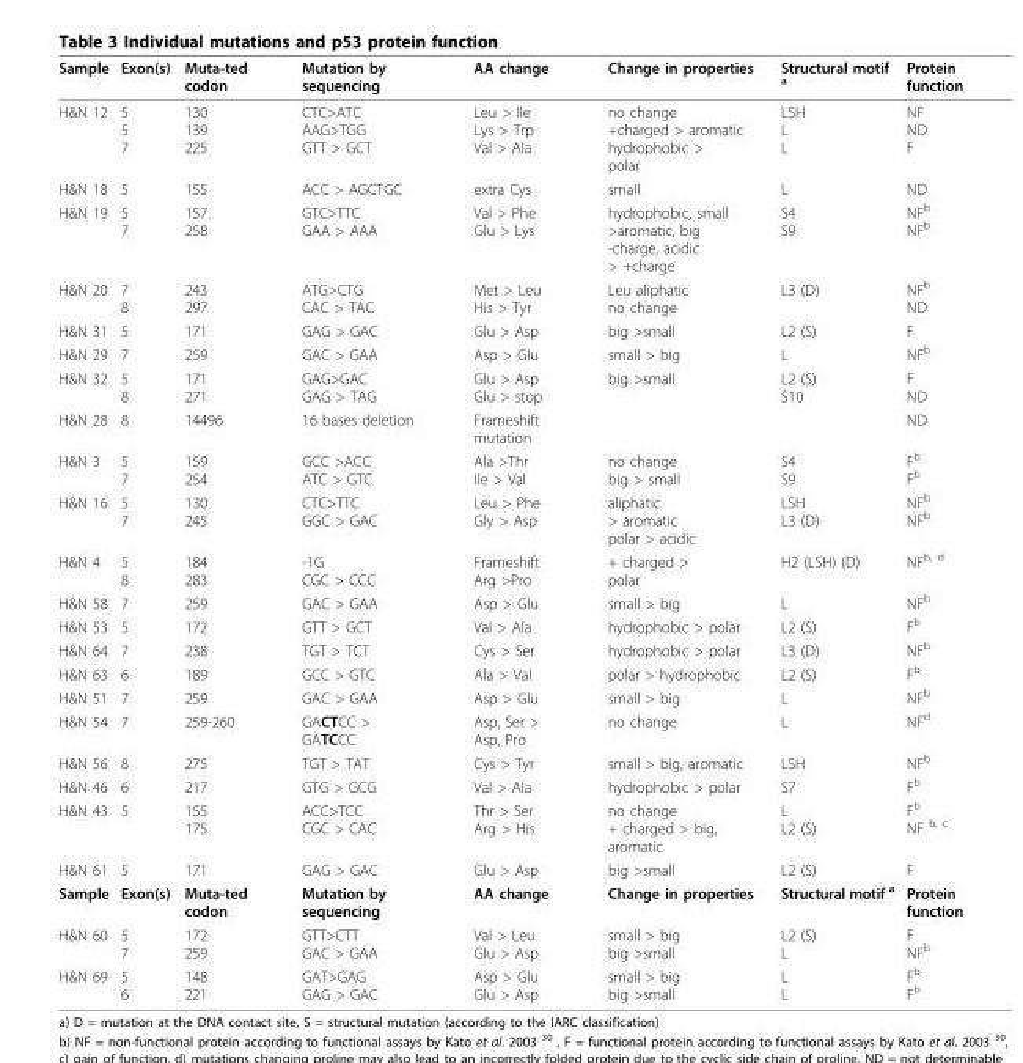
<table><thead><tr><td>Sample</td><td>Exon(s)</td><td>Muta-ted codon</td><td>Mutation by sequencing</td><td>AA change</td><td>Change in properties</td><td>Structural motif <sup>a</sup></td><td>Protein function</td></tr></thead><tbody><tr><td>H&amp;N 12</td><td>5 5 7</td><td>130 139 225</td><td>CTC&gt;ATC AAG&gt;TGG GTT &gt; GCT</td><td>Leu &gt; Ile Lys &gt; Trp Val &gt; Ala</td><td>no change +charged &gt; aromatic hydrophobic &gt; polar</td><td>LSH L L</td><td>NF ND F</td></tr><tr><td>H&amp;N 18</td><td>5</td><td>155</td><td>ACC &gt; AGCTGC</td><td>extra Cys</td><td>small</td><td>L</td><td>ND</td></tr><tr><td>H&amp;N 19</td><td>5 7</td><td>157 258</td><td>GTC&gt;TTC GAA &gt; AAA</td><td>Val &gt; Phe Glu &gt; Lys</td><td>hydrophobic, small &gt;aromatic, big -charge, acidic &gt; +charge</td><td>S4 S9</td><td>NF<sup>b</sup> NF<sup>b</sup></td></tr><tr><td>H&amp;N 20</td><td>7 8</td><td>243 297</td><td>ATG&gt;CTG CAC &gt; TAC</td><td>Met &gt; Leu His &gt; Tyr</td><td>Leu aliphatic no change</td><td>L3 (D)</td><td>NF<sup>b</sup> ND</td></tr><tr><td>H&amp;N 31</td><td>5</td><td>171</td><td>GAG &gt; GAC</td><td>Glu &gt; Asp</td><td>big &gt;small</td><td>L2 (S)</td><td>F</td></tr><tr><td>H&amp;N 29</td><td>7</td><td>259</td><td>GAC &gt; GAA</td><td>Asp &gt; Glu</td><td>small &gt; big</td><td>L</td><td>NF<sup>b</sup></td></tr><tr><td>H&amp;N 32</td><td>5 8</td><td>171 271</td><td>GAG&gt;GAC GAG &gt; TAG</td><td>Glu &gt; Asp Glu &gt; stop</td><td>big &gt;small</td><td>L2 (S) S10</td><td>F ND</td></tr><tr><td>H&amp;N 28</td><td>8</td><td>14496</td><td>16 bases deletion</td><td>Frameshift mutation</td><td></td><td></td><td>ND</td></tr><tr><td>H&amp;N 3</td><td>5 7</td><td>159 254</td><td>GCC &gt;ACC ATC &gt; GTC</td><td>Ala &gt;Thr Ile &gt; Val</td><td>no change big &gt; small</td><td>S4 S9</td><td>F<sup>b</sup> F<sup>b</sup></td></tr><tr><td>H&amp;N 16</td><td>5 7</td><td>130 245</td><td>CTC&gt;TTC GGC &gt; GAC</td><td>Leu &gt; Phe Gly &gt; Asp</td><td>aliphatic &gt; aromatic polar &gt; acidic</td><td>LSH L3 (D)</td><td>NF<sup>b</sup> NF<sup>b</sup></td></tr><tr><td>H&amp;N 4</td><td>5 8</td><td>184 283</td><td>-1G CGC &gt; CCC</td><td>Frameshift Arg &gt;Pro</td><td>+ charged &gt; polar</td><td>H2 (LSH) (D)</td><td>NF<sup>b, d</sup></td></tr><tr><td>H&amp;N 58</td><td>7</td><td>259</td><td>GAC &gt; GAA</td><td>Asp &gt; Glu</td><td>small &gt; big</td><td>L</td><td>NF<sup>b</sup></td></tr><tr><td>H&amp;N 53</td><td>5</td><td>172</td><td>GTT &gt; GCT</td><td>Val &gt; Ala</td><td>hydrophobic &gt; polar</td><td>L2 (S)</td><td>F<sup>b</sup></td></tr><tr><td>H&amp;N 64</td><td>7</td><td>238</td><td>TGT &gt; TCT</td><td>Cys &gt; Ser</td><td>hydrophobic &gt; polar</td><td>L3 (D)</td><td>NF<sup>b</sup></td></tr><tr><td>H&amp;N 63</td><td>6</td><td>189</td><td>GCC &gt; GTC</td><td>Ala &gt; Val</td><td>polar &gt; hydrophobic</td><td>L2 (S)</td><td>F<sup>b</sup></td></tr><tr><td>H&amp;N 51</td><td>7</td><td>259</td><td>GAC &gt; GAA</td><td>Asp &gt; Glu</td><td>small &gt; big</td><td>L</td><td>NF<sup>b</sup></td></tr><tr><td>H&amp;N 54</td><td>7</td><td>259-260</td><td>GACTCC &gt; GATCCC</td><td>Asp, Ser &gt; Asp, Pro</td><td>no change</td><td>L</td><td>NF<sup>d</sup></td></tr><tr><td>H&amp;N 56</td><td>8</td><td>275</td><td>TGT &gt; TAT</td><td>Cys &gt; Tyr</td><td>small &gt; big, aromatic</td><td>LSH</td><td>NF<sup>b</sup></td></tr><tr><td>H&amp;N 46</td><td>6</td><td>217</td><td>GTG &gt; GCG</td><td>Val &gt; Ala</td><td>hydrophobic &gt; polar</td><td>S7</td><td>F<sup>b</sup></td></tr><tr><td>H&amp;N 43</td><td>5</td><td>155 175</td><td>ACC&gt;TCC CGC &gt; CAC</td><td>Thr &gt; Ser Arg &gt; His</td><td>no change + charged &gt; big, aromatic</td><td>L L2 (S)</td><td>F<sup>b</sup> NF <sup>b, c</sup></td></tr><tr><td>H&amp;N 61</td><td>5</td><td>171</td><td>GAG &gt; GAC</td><td>Glu &gt; Asp</td><td>big &gt;small</td><td>L2 (S)</td><td>F</td></tr><tr><td>Sample</td><td>Exon(s)</td><td>Muta-ted codon</td><td>Mutation by sequencing</td><td>AA change</td><td>Change in properties</td><td>Structural motif <sup>a</sup></td><td>Protein function</td></tr><tr><td>H&amp;N 60</td><td>5 7</td><td>172 259</td><td>GTT&gt;CTT GAC &gt; GAA</td><td>Val &gt; Leu Glu &gt; Asp</td><td>small &gt; big big &gt;small</td><td>L2 (S) L</td><td>F NF<sup>b</sup></td></tr><tr><td>H&amp;N 69</td><td>5 6</td><td>148 221</td><td>GAT&gt;GAG GAG &gt; GAC</td><td>Asp &gt; Glu Glu &gt; Asp</td><td>small &gt; big big &gt;small</td><td>L L</td><td>F<sup>b</sup> F<sup>b</sup></td></tr></tbody></table>